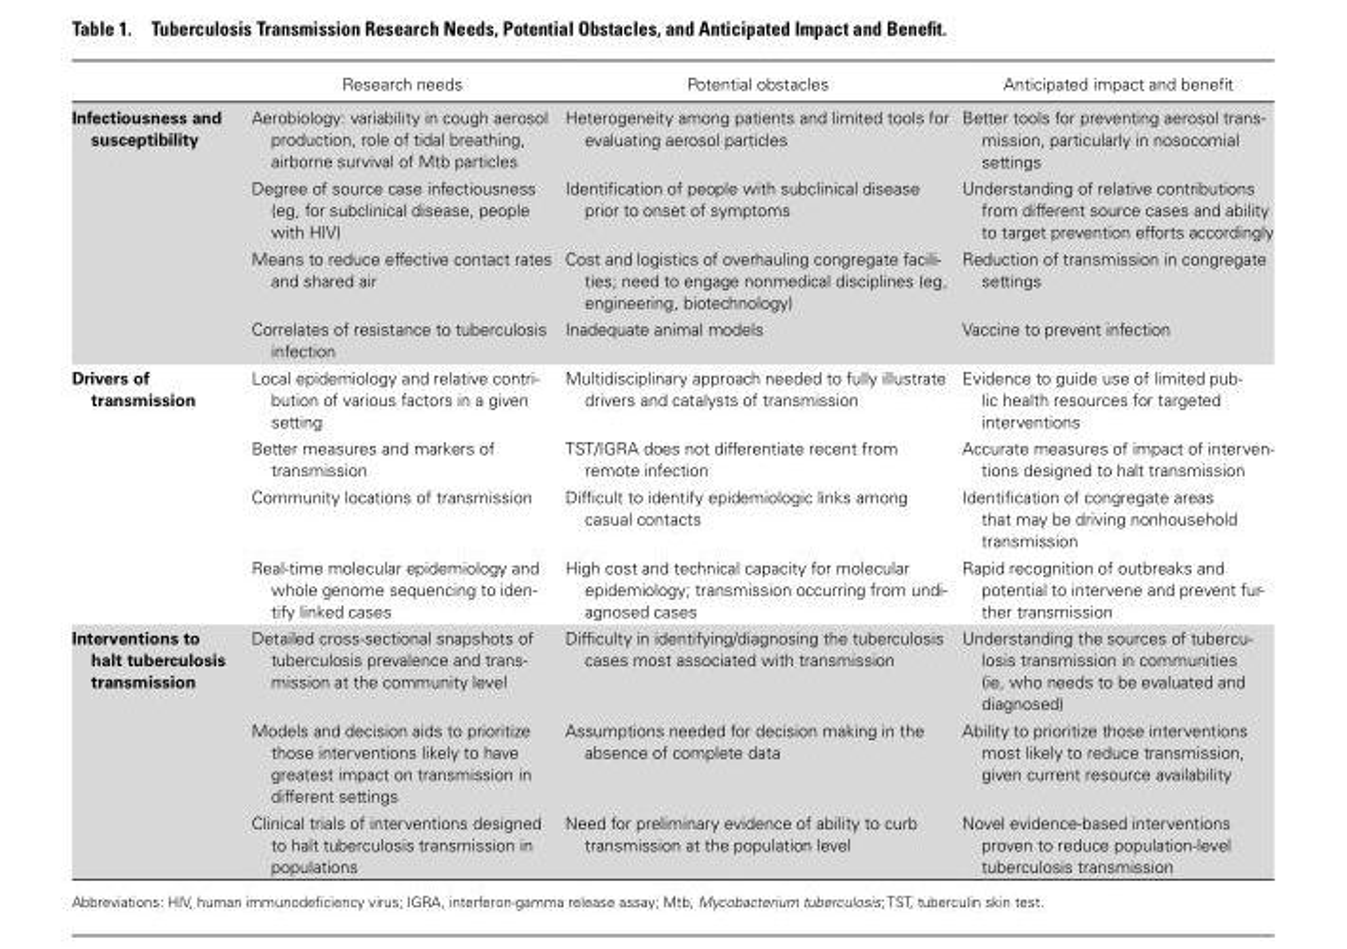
<table><thead><tr><td></td><td>Research needs</td><td>Potential obstacles</td><td>Anticipated impact and benefit</td></tr></thead><tbody><tr><td rowspan="4">Infectiousness and susceptibility</td><td>Aerobiology: variability in cough aerosol production, role of tidal breathing, airborne survival of Mtb particles</td><td>Heterogeneity among patients and limited tools for evaluating aerosol particles</td><td>Better tools for preventing aerosol trans- mission, particularly in nosocomial settings</td></tr><tr><td>Degree of source case infectiousness (eg, for subclinical disease, people with HIV)</td><td>Identification of people with subclinical disease prior to onset of symptoms</td><td>Understanding of relative contributions from different source cases and ability to target prevention efforts accordingly</td></tr><tr><td>Means to reduce effective contact rates and shared air</td><td>Cost and logistics of overhauling congregate facili- ties; need to engage nonmedical disciplines (eg, engineering, biotechnology)</td><td>Reduction of transmission in congregate settings</td></tr><tr><td>Correlates of resistance to tuberculosis infection</td><td>Inadequate animal models</td><td>Vaccine to prevent infection</td></tr><tr><td rowspan="4">Drivers of transmission</td><td>Local epidemiology and relative contri- bution of various factors in a given setting</td><td>Multidisciplinary approach needed to fully illustrate drivers and catalysts of transmission</td><td>Evidence to guide use of limited pub- lic health resources for targeted interventions</td></tr><tr><td>Better measures and markers of transmission</td><td>TST/IGRA does not differentiate recent from remote infection</td><td>Accurate measures of impact of interven- tions designed to halt transmission</td></tr><tr><td>Community locations of transmission</td><td>Difficult to identify epidemiologic links among casual contacts</td><td>Identification of congregate areas that may be driving nonhousehold transmission</td></tr><tr><td>Real-time molecular epidemiology and whole genome sequencing to iden- tify linked cases</td><td>High cost and technical capacity for molecular epidemiology; transmission occurring from undi- agnosed cases</td><td>Rapid recognition of outbreaks and potential to intervene and prevent fur- ther transmission</td></tr><tr><td rowspan="3">Interventions to halt tuberculosis transmission</td><td>Detailed cross-sectional snapshots of tuberculosis prevalence and trans- mission at the community level</td><td>Difficulty in identifying/diagnosing the tuberculosis cases most associated with transmission</td><td>Understanding the sources of tubercu- losis transmission in communities (ie, who needs to be evaluated and diagnosed)</td></tr><tr><td>Models and decision aids to prioritize those interventions likely to have greatest impact on transmission in different settings</td><td>Assumptions needed for decision making in the absence of complete data</td><td>Ability to prioritize those interventions most likely to reduce transmission, given current resource availability</td></tr><tr><td>Clinical trials of interventions designed to halt tuberculosis transmission in populations</td><td>Need for preliminary evidence of ability to curb transmission at the population level</td><td>Novel evidence-based interventions proven to reduce population-level tuberculosis transmission</td></tr></tbody></table>